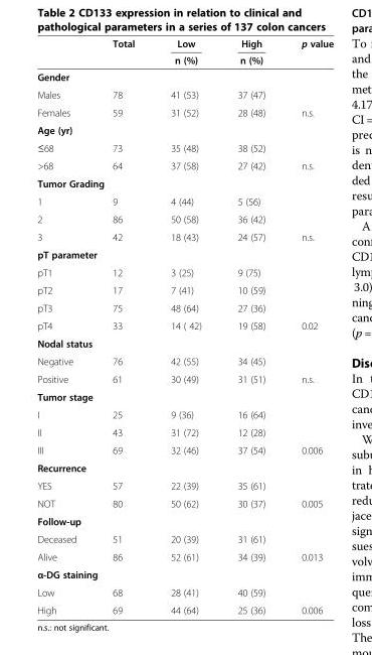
<table><thead><tr><td rowspan="2"></td><td rowspan="2">Total</td><td rowspan="2">Low n (%)</td><td rowspan="2">High n (%)</td><td rowspan="2">p value</td></tr><tr></tr></thead><tbody><tr><td colspan="5">Gender</td></tr><tr><td>Males</td><td>78</td><td>41 (53)</td><td>37 (47)</td><td></td></tr><tr><td>Females</td><td>59</td><td>31 (52)</td><td>28 (48)</td><td>n.s.</td></tr><tr><td colspan="5">Age (yr)</td></tr><tr><td>≤68</td><td>73</td><td>35 (48)</td><td>38 (52)</td><td></td></tr><tr><td>&gt;68</td><td>64</td><td>37 (58)</td><td>27 (42)</td><td>n.s.</td></tr><tr><td colspan="5">Tumor Grading</td></tr><tr><td>1</td><td>9</td><td>4 (44)</td><td>5 (56)</td><td></td></tr><tr><td>2</td><td>86</td><td>50 (58)</td><td>36 (42)</td><td></td></tr><tr><td>3</td><td>42</td><td>18 (43)</td><td>24 (57)</td><td>n.s.</td></tr><tr><td colspan="5">pT parameter</td></tr><tr><td>pT1</td><td>12</td><td>3 (25)</td><td>9 (75)</td><td></td></tr><tr><td>pT2</td><td>17</td><td>7 (41)</td><td>10 (59)</td><td></td></tr><tr><td>pT3</td><td>75</td><td>48 (64)</td><td>27 (36)</td><td></td></tr><tr><td>pT4</td><td>33</td><td>14 ( 42)</td><td>19 (58)</td><td>0.02</td></tr><tr><td colspan="5">Nodal status</td></tr><tr><td>Negative</td><td>76</td><td>42 (55)</td><td>34 (45)</td><td></td></tr><tr><td>Positive</td><td>61</td><td>30 (49)</td><td>31 (51)</td><td>n.s.</td></tr><tr><td colspan="5">Tumor stage</td></tr><tr><td>I</td><td>25</td><td>9 (36)</td><td>16 (64)</td><td></td></tr><tr><td>II</td><td>43</td><td>31 (72)</td><td>12 (28)</td><td></td></tr><tr><td>III</td><td>69</td><td>32 (46)</td><td>37 (54)</td><td>0.006</td></tr><tr><td colspan="5">Recurrence</td></tr><tr><td>YES</td><td>57</td><td>22 (39)</td><td>35 (61)</td><td></td></tr><tr><td>NOT</td><td>80</td><td>50 (62)</td><td>30 (37)</td><td>0.005</td></tr><tr><td colspan="5">Follow-up</td></tr><tr><td>Deceased</td><td>51</td><td>20 (39)</td><td>31 (61)</td><td></td></tr><tr><td>Alive</td><td>86</td><td>52 (61)</td><td>34 (39)</td><td>0.013</td></tr><tr><td colspan="5">α-DG staining</td></tr><tr><td>Low</td><td>68</td><td>28 (41)</td><td>40 (59)</td><td></td></tr><tr><td>High</td><td>69</td><td>44 (64)</td><td>25 (36)</td><td>0.006</td></tr></tbody></table>